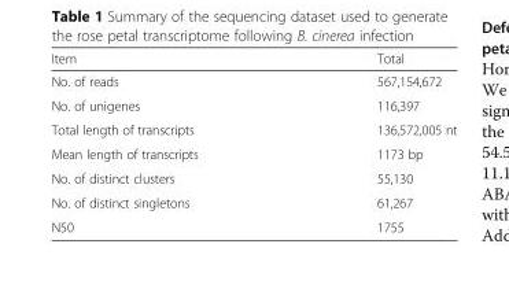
<table><thead><tr><td>Item</td><td>Total</td></tr></thead><tbody><tr><td>No. of reads</td><td>567,154,672</td></tr><tr><td>No. of unigenes</td><td>116,397</td></tr><tr><td>Total length of transcripts</td><td>136,572,005 nt</td></tr><tr><td>Mean length of transcripts</td><td>1173 bp</td></tr><tr><td>No. of distinct clusters</td><td>55,130</td></tr><tr><td>No. of distinct singletons</td><td>61,267</td></tr><tr><td>N50</td><td>1755</td></tr></tbody></table>